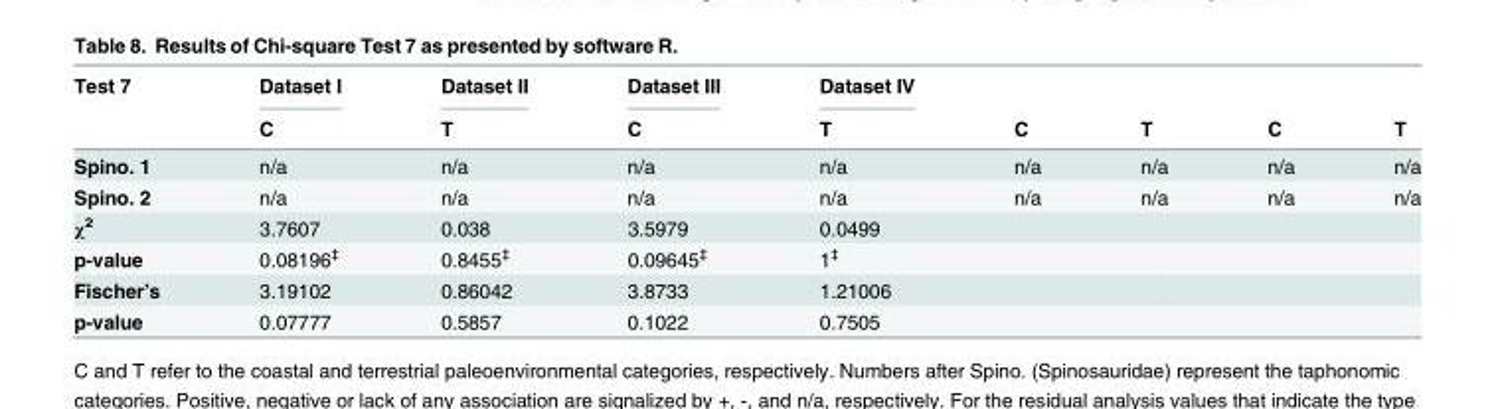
<table><thead><tr><td rowspan="2">Test 7</td><td rowspan="2">Dataset I C</td><td rowspan="2">Dataset II T</td><td rowspan="2">Dataset III C</td><td rowspan="2">Dataset IV T</td><td rowspan="2">C</td><td rowspan="2">T</td><td rowspan="2">C</td><td rowspan="2">T</td></tr><tr></tr></thead><tbody><tr><td>Spino. 1</td><td>n/a</td><td>n/a</td><td>n/a</td><td>n/a</td><td>n/a</td><td>n/a</td><td>n/a</td><td>n/a</td></tr><tr><td>Spino. 2</td><td>n/a</td><td>n/a</td><td>n/a</td><td>n/a</td><td>n/a</td><td>n/a</td><td>n/a</td><td>n/a</td></tr><tr><td>χ<sup>2</sup></td><td>3.7607</td><td>0.038</td><td>3.5979</td><td>0.0499</td><td></td><td></td><td></td><td></td></tr><tr><td>p-value</td><td>0.08196<sup>‡</sup></td><td>0.8455<sup>‡</sup></td><td>0.09645<sup>‡</sup></td><td>1<sup>‡</sup></td><td></td><td></td><td></td><td></td></tr><tr><td>Fischer’s</td><td>3.19102</td><td>0.86042</td><td>3.8733</td><td>1.21006</td><td></td><td></td><td></td><td></td></tr><tr><td>p-value</td><td>0.07777</td><td>0.5857</td><td>0.1022</td><td>0.7505</td><td></td><td></td><td></td><td></td></tr></tbody></table>